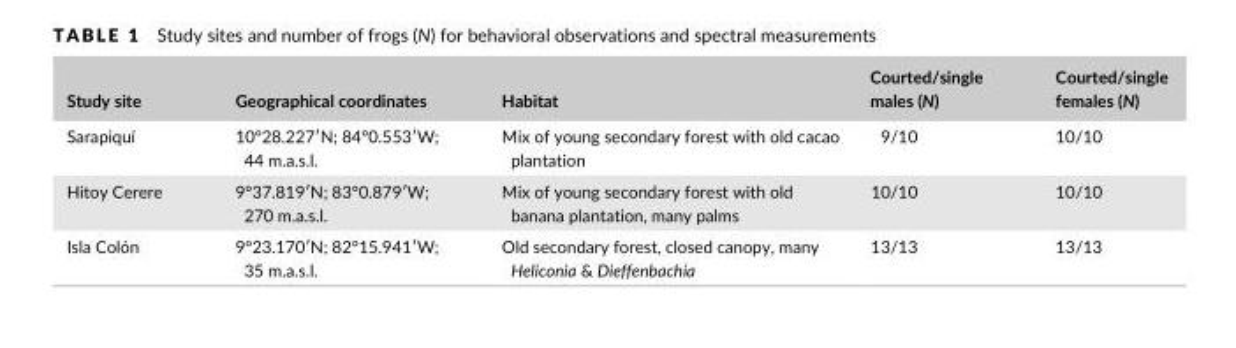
<table><thead><tr><td>Study site</td><td>Geographical coordinates</td><td>Habitat</td><td>Courted/single males (N)</td><td>Courted/single females (N)</td></tr></thead><tbody><tr><td>Sarapiquí</td><td>10°28.227′N; 84°0.553′W; 44 m.a.s.l.</td><td>Mix of young secondary forest with old cacao plantation</td><td>9/10</td><td>10/10</td></tr><tr><td>Hitoy Cerere</td><td>9°37.819′N; 83°0.879′W; 270 m.a.s.l.</td><td>Mix of young secondary forest with old banana plantation, many palms</td><td>10/10</td><td>10/10</td></tr><tr><td>Isla Colón</td><td>9°23.170′N; 82°15.941′W; 35 m.a.s.l.</td><td>Old secondary forest, closed canopy, many Heliconia &amp; Dieffenbachia</td><td>13/13</td><td>13/13</td></tr></tbody></table>